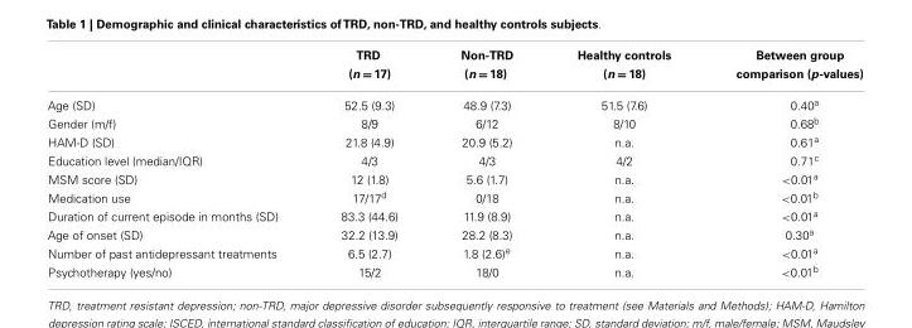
<table><thead><tr><td></td><td>TRD (n = 17)</td><td>Non-TRD (n = 18)</td><td>Healthy controls (n = 18)</td><td>Between group comparison (p-values)</td></tr></thead><tbody><tr><td>Age (SD)</td><td>52.5 (9.3)</td><td>48.9 (7.3)</td><td>51.5 (7.6)</td><td>0.40<sup>a</sup></td></tr><tr><td>Gender (m/f)</td><td>8/9</td><td>6/12</td><td>8/10</td><td>0.68<sup>b</sup></td></tr><tr><td>HAM-D (SD)</td><td>21.8 (4.9)</td><td>20.9 (5.2)</td><td>n.a.</td><td>0.61<sup>a</sup></td></tr><tr><td>Education level (median/IQR)</td><td>4/3</td><td>4/3</td><td>4/2</td><td>0.71<sup>c</sup></td></tr><tr><td>MSM score (SD)</td><td>12 (1.8)</td><td>5.6 (1.7)</td><td>n.a.</td><td>&lt;0.01<sup>a</sup></td></tr><tr><td>Medication use</td><td>17/17<sup>d</sup></td><td>0/18</td><td>n.a.</td><td>&lt;0.01<sup>b</sup></td></tr><tr><td>Duration of current episode in months (SD)</td><td>83.3 (44.6)</td><td>11.9 (8.9)</td><td>n.a.</td><td>&lt;0.01<sup>a</sup></td></tr><tr><td>Age of onset (SD)</td><td>32.2 (13.9)</td><td>28.2 (8.3)</td><td>n.a.</td><td>0.30<sup>a</sup></td></tr><tr><td>Number of past antidepressant treatments</td><td>6.5 (2.7)</td><td>1.8 (2.6)<sup>e</sup></td><td>n.a.</td><td>&lt;0.01<sup>a</sup></td></tr><tr><td>Psychotherapy (yes/no)</td><td>15/2</td><td>18/0</td><td>n.a.</td><td>&lt;0.01<sup>b</sup></td></tr></tbody></table>